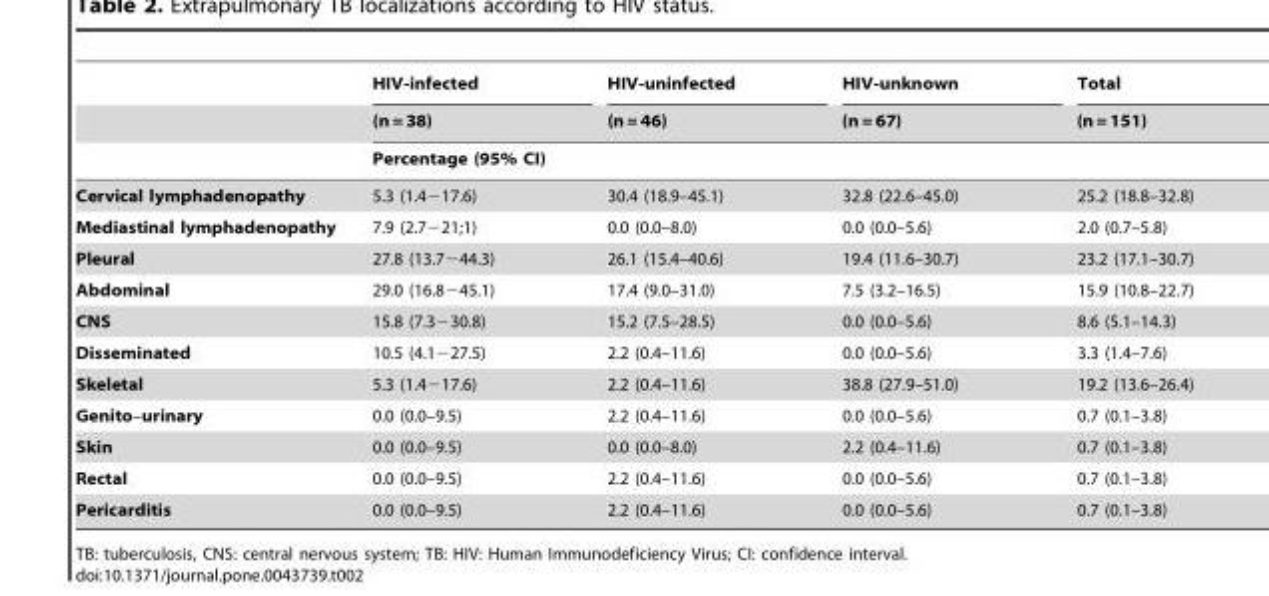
<table><thead><tr><td rowspan="3"></td><td>HIV-infected</td><td>HIV-uninfected</td><td>HIV-unknown</td><td>Total</td></tr><tr><td rowspan="2" colspan="4">(n = 38) (n = 46) (n = 67) (n = 151) Percentage (95% CI)</td></tr><tr></tr></thead><tbody><tr><td>Cervical lymphadenopathy</td><td>5.3 (1.4−17.6)</td><td>30.4 (18.9–45.1)</td><td>32.8 (22.6–45.0)</td><td>25.2 (18.8–32.8)</td></tr><tr><td>Mediastinal lymphadenopathy</td><td>7.9 (2.7−21;1)</td><td>0.0 (0.0–8.0)</td><td>0.0 (0.0–5.6)</td><td>2.0 (0.7–5.8)</td></tr><tr><td>Pleural</td><td>27.8 (13.7−44.3)</td><td>26.1 (15.4–40.6)</td><td>19.4 (11.6–30.7)</td><td>23.2 (17.1–30.7)</td></tr><tr><td>Abdominal</td><td>29.0 (16.8−45.1)</td><td>17.4 (9.0–31.0)</td><td>7.5 (3.2–16.5)</td><td>15.9 (10.8–22.7)</td></tr><tr><td>CNS</td><td>15.8 (7.3−30.8)</td><td>15.2 (7.5–28.5)</td><td>0.0 (0.0–5.6)</td><td>8.6 (5.1–14.3)</td></tr><tr><td>Disseminated</td><td>10.5 (4.1−27.5)</td><td>2.2 (0.4–11.6)</td><td>0.0 (0.0–5.6)</td><td>3.3 (1.4–7.6)</td></tr><tr><td>Skeletal</td><td>5.3 (1.4−17.6)</td><td>2.2 (0.4–11.6)</td><td>38.8 (27.9–51.0)</td><td>19.2 (13.6–26.4)</td></tr><tr><td>Genito–urinary</td><td>0.0 (0.0–9.5)</td><td>2.2 (0.4–11.6)</td><td>0.0 (0.0–5.6)</td><td>0.7 (0.1–3.8)</td></tr><tr><td>Skin</td><td>0.0 (0.0–9.5)</td><td>0.0 (0.0–8.0)</td><td>2.2 (0.4–11.6)</td><td>0.7 (0.1–3.8)</td></tr><tr><td>Rectal</td><td>0.0 (0.0–9.5)</td><td>2.2 (0.4–11.6)</td><td>0.0 (0.0–5.6)</td><td>0.7 (0.1–3.8)</td></tr><tr><td>Pericarditis</td><td>0.0 (0.0–9.5)</td><td>2.2 (0.4–11.6)</td><td>0.0 (0.0–5.6)</td><td>0.7 (0.1–3.8)</td></tr></tbody></table>